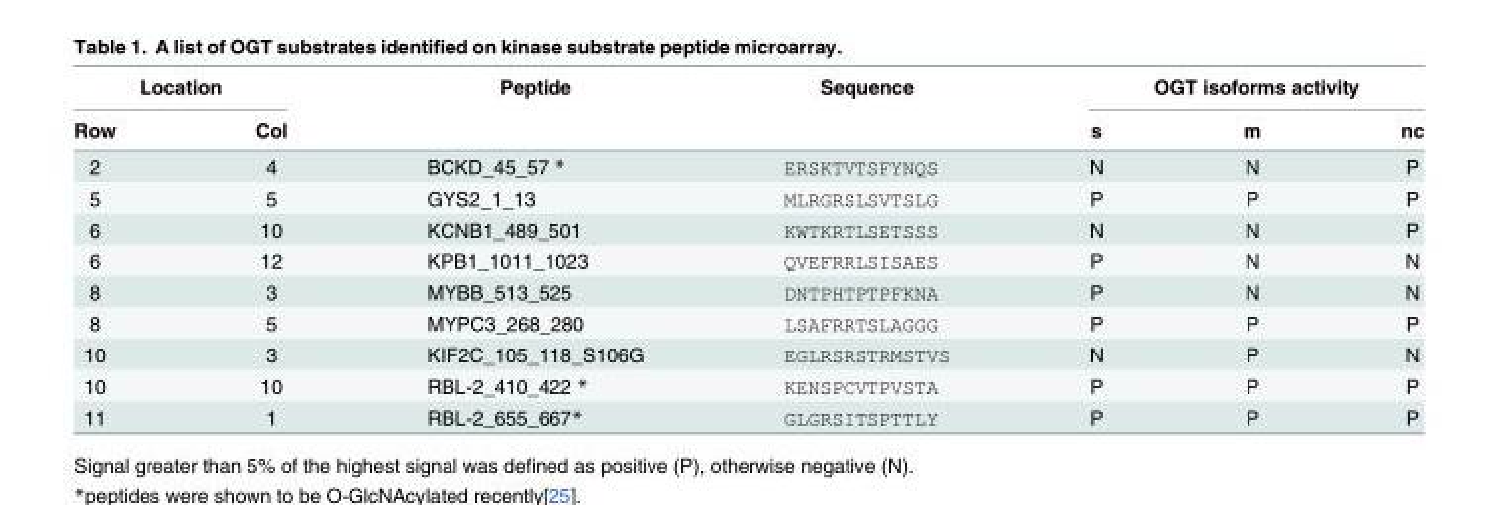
<table><thead><tr><td colspan="2">Location</td><td rowspan="2">Peptide</td><td rowspan="2">Sequence</td><td colspan="3">OGT isoforms activity</td></tr><tr><td>Row</td><td>Col</td><td>s</td><td>m</td><td>nc</td></tr></thead><tbody><tr><td>2</td><td>4</td><td>BCKD_45_57 *</td><td>ERSKTVTSFYNQS</td><td>N</td><td>N</td><td>P</td></tr><tr><td>5</td><td>5</td><td>GYS2_1_13</td><td>MLRGRSLSVTSLG</td><td>P</td><td>P</td><td>P</td></tr><tr><td>6</td><td>10</td><td>KCNB1_489_501</td><td>KWTKRTLSETSSS</td><td>N</td><td>N</td><td>P</td></tr><tr><td>6</td><td>12</td><td>KPB1_1011_1023</td><td>QVEFRRLSISAES</td><td>P</td><td>N</td><td>N</td></tr><tr><td>8</td><td>3</td><td>MYBB_513_525</td><td>DNTPHTPTPFKNA</td><td>P</td><td>N</td><td>N</td></tr><tr><td>8</td><td>5</td><td>MYPC3_268_280</td><td>LSAFRRTSLAGGG</td><td>P</td><td>P</td><td>P</td></tr><tr><td>10</td><td>3</td><td>KIF2C_105_118_S106G</td><td>EGLRSRSTRMSTVS</td><td>N</td><td>P</td><td>N</td></tr><tr><td>10</td><td>10</td><td>RBL-2_410_422 *</td><td>KENSPCVTPVSTA</td><td>P</td><td>P</td><td>P</td></tr><tr><td>11</td><td>1</td><td>RBL-2_655_667*</td><td>GLGRSITSPTTLY</td><td>P</td><td>P</td><td>P</td></tr></tbody></table>